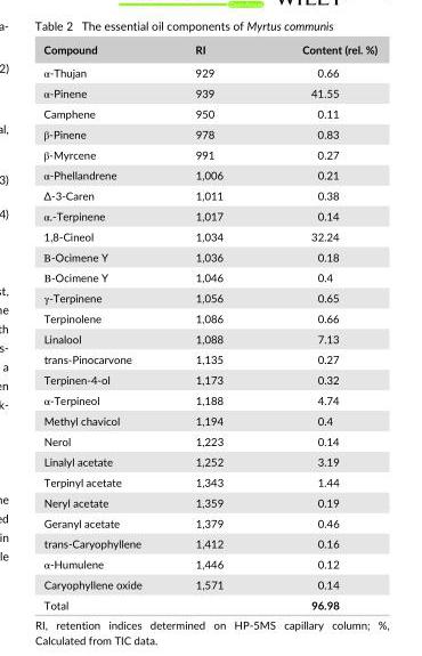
<table><thead><tr><td>Compound</td><td>RI</td><td>Content (rel. %)</td></tr></thead><tbody><tr><td>α- Thujan</td><td>929</td><td>0.66</td></tr><tr><td>α- Pinene</td><td>939</td><td>41.55</td></tr><tr><td>Camphene</td><td>950</td><td>0.11</td></tr><tr><td>β- Pinene</td><td>978</td><td>0.83</td></tr><tr><td>β- Myrcene</td><td>991</td><td>0.27</td></tr><tr><td>α- Phellandrene</td><td>1,006</td><td>0.21</td></tr><tr><td>∆- 3- Caren</td><td>1,011</td><td>0.38</td></tr><tr><td>α.- Terpinene</td><td>1,017</td><td>0.14</td></tr><tr><td>1,8- Cineol</td><td>1,034</td><td>32.24</td></tr><tr><td>Β- Ocimene Y</td><td>1,036</td><td>0.18</td></tr><tr><td>Β- Ocimene Y</td><td>1,046</td><td>0.4</td></tr><tr><td>γ- Terpinene</td><td>1,056</td><td>0.65</td></tr><tr><td>Terpinolene</td><td>1,086</td><td>0.66</td></tr><tr><td>Linalool</td><td>1,088</td><td>7.13</td></tr><tr><td>trans- Pinocarvone</td><td>1,135</td><td>0.27</td></tr><tr><td>Terpinen- 4- ol</td><td>1,173</td><td>0.32</td></tr><tr><td>α- Terpineol</td><td>1,188</td><td>4.74</td></tr><tr><td>Methyl chavicol</td><td>1,194</td><td>0.4</td></tr><tr><td>Nerol</td><td>1,223</td><td>0.14</td></tr><tr><td>Linalyl acetate</td><td>1,252</td><td>3.19</td></tr><tr><td>Terpinyl acetate</td><td>1,343</td><td>1.44</td></tr><tr><td>Neryl acetate</td><td>1,359</td><td>0.19</td></tr><tr><td>Geranyl acetate</td><td>1,379</td><td>0.46</td></tr><tr><td>trans- Caryophyllene</td><td>1,412</td><td>0.16</td></tr><tr><td>α- Humulene</td><td>1,446</td><td>0.12</td></tr><tr><td>Caryophyllene oxide</td><td>1,571</td><td>0.14</td></tr><tr><td>Total</td><td></td><td>96.98</td></tr></tbody></table>